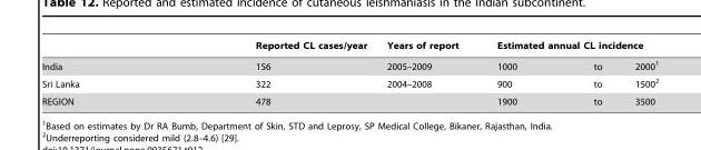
<table><thead><tr><td rowspan="2">India</td><td rowspan="2">Reported CL cases/year 156</td><td rowspan="2">Years of report 2005–2009</td><td colspan="3">Estimated annual CL incidence</td></tr><tr><td>1000</td><td>to</td><td>2000<sup>1</sup></td></tr></thead><tbody><tr><td>Sri Lanka</td><td>322</td><td>2004–2008</td><td>900</td><td>to</td><td>1500<sup>2</sup></td></tr><tr><td>REGION</td><td>478</td><td></td><td>1900</td><td>to</td><td>3500</td></tr></tbody></table>